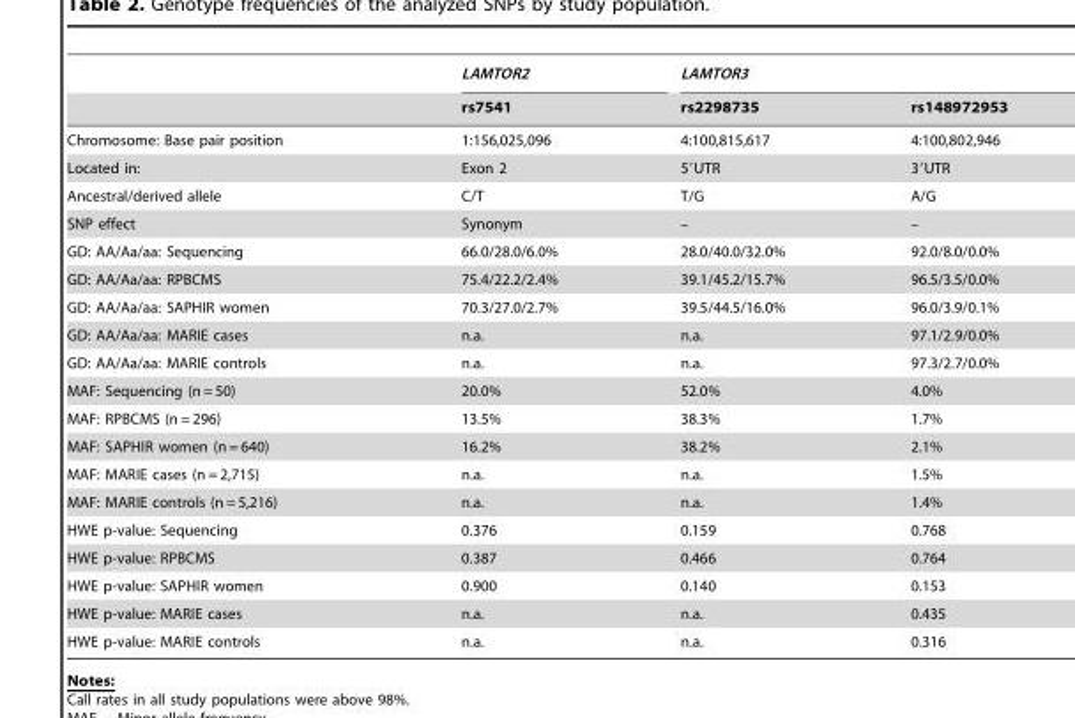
<table><thead><tr><td rowspan="2"></td><td rowspan="2">LAMTOR2 rs7541</td><td colspan="2">LAMTOR3</td></tr><tr><td>rs2298735</td><td>rs148972953</td></tr></thead><tbody><tr><td>Chromosome: Base pair position</td><td>1:156,025,096</td><td>4:100,815,617</td><td>4:100,802,946</td></tr><tr><td>Located in:</td><td>Exon 2</td><td>5′UTR</td><td>3′UTR</td></tr><tr><td>Ancestral/derived allele</td><td>C/T</td><td>T/G</td><td>A/G</td></tr><tr><td>SNP effect</td><td>Synonym</td><td>–</td><td>–</td></tr><tr><td>GD: AA/Aa/aa: Sequencing</td><td>66.0/28.0/6.0%</td><td>28.0/40.0/32.0%</td><td>92.0/8.0/0.0%</td></tr><tr><td>GD: AA/Aa/aa: RPBCMS</td><td>75.4/22.2/2.4%</td><td>39.1/45.2/15.7%</td><td>96.5/3.5/0.0%</td></tr><tr><td>GD: AA/Aa/aa: SAPHIR women</td><td>70.3/27.0/2.7%</td><td>39.5/44.5/16.0%</td><td>96.0/3.9/0.1%</td></tr><tr><td>GD: AA/Aa/aa: MARIE cases</td><td>n.a.</td><td>n.a.</td><td>97.1/2.9/0.0%</td></tr><tr><td>GD: AA/Aa/aa: MARIE controls</td><td>n.a.</td><td>n.a.</td><td>97.3/2.7/0.0%</td></tr><tr><td>MAF: Sequencing (n = 50)</td><td>20.0%</td><td>52.0%</td><td>4.0%</td></tr><tr><td>MAF: RPBCMS (n = 296)</td><td>13.5%</td><td>38.3%</td><td>1.7%</td></tr><tr><td>MAF: SAPHIR women (n = 640)</td><td>16.2%</td><td>38.2%</td><td>2.1%</td></tr><tr><td>MAF: MARIE cases (n = 2,715)</td><td>n.a.</td><td>n.a.</td><td>1.5%</td></tr><tr><td>MAF: MARIE controls (n = 5,216)</td><td>n.a.</td><td>n.a.</td><td>1.4%</td></tr><tr><td>HWE p-value: Sequencing</td><td>0.376</td><td>0.159</td><td>0.768</td></tr><tr><td>HWE p-value: RPBCMS</td><td>0.387</td><td>0.466</td><td>0.764</td></tr><tr><td>HWE p-value: SAPHIR women</td><td>0.900</td><td>0.140</td><td>0.153</td></tr><tr><td>HWE p-value: MARIE cases</td><td>n.a.</td><td>n.a.</td><td>0.435</td></tr><tr><td>HWE p-value: MARIE controls</td><td>n.a.</td><td>n.a.</td><td>0.316</td></tr></tbody></table>